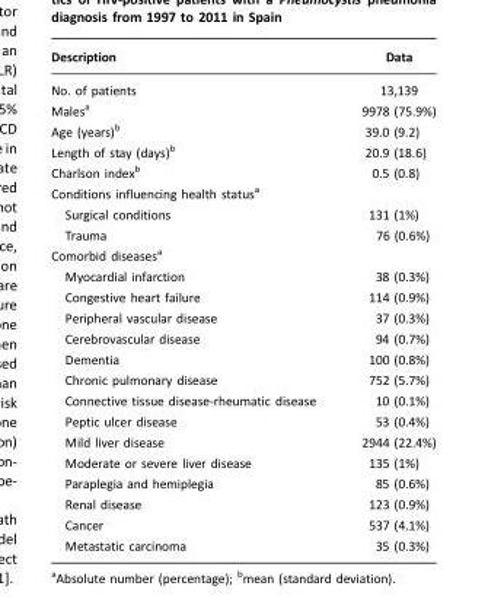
<table><thead><tr><td>Description</td><td>Data</td></tr></thead><tbody><tr><td>No. of patients</td><td>13,139</td></tr><tr><td>Males<sup>a</sup></td><td>9978 (75.9%)</td></tr><tr><td>Age (years)<sup>b</sup></td><td>39.0 (9.2)</td></tr><tr><td>Length of stay (days)<sup>b</sup></td><td>20.9 (18.6)</td></tr><tr><td>Charlson index<sup>b</sup></td><td>0.5 (0.8)</td></tr><tr><td colspan="2">Conditions influencing health status<sup>a</sup></td></tr><tr><td>Surgical conditions</td><td>131 (1%)</td></tr><tr><td>Trauma</td><td>76 (0.6%)</td></tr><tr><td colspan="2">Comorbid diseases<sup>a</sup></td></tr><tr><td>Myocardial infarction</td><td>38 (0.3%)</td></tr><tr><td>Congestive heart failure</td><td>114 (0.9%)</td></tr><tr><td>Peripheral vascular disease</td><td>37 (0.3%)</td></tr><tr><td>Cerebrovascular disease</td><td>94 (0.7%)</td></tr><tr><td>Dementia</td><td>100 (0.8%)</td></tr><tr><td>Chronic pulmonary disease</td><td>752 (5.7%)</td></tr><tr><td>Connective tissue disease-rheumatic disease</td><td>10 (0.1%)</td></tr><tr><td>Peptic ulcer disease</td><td>53 (0.4%)</td></tr><tr><td>Mild liver disease</td><td>2944 (22.4%)</td></tr><tr><td>Moderate or severe liver disease</td><td>135 (1%)</td></tr><tr><td>Paraplegia and hemiplegia</td><td>85 (0.6%)</td></tr><tr><td>Renal disease</td><td>123 (0.9%)</td></tr><tr><td>Cancer</td><td>537 (4.1%)</td></tr><tr><td>Metastatic carcinoma</td><td>35 (0.3%)</td></tr></tbody></table>